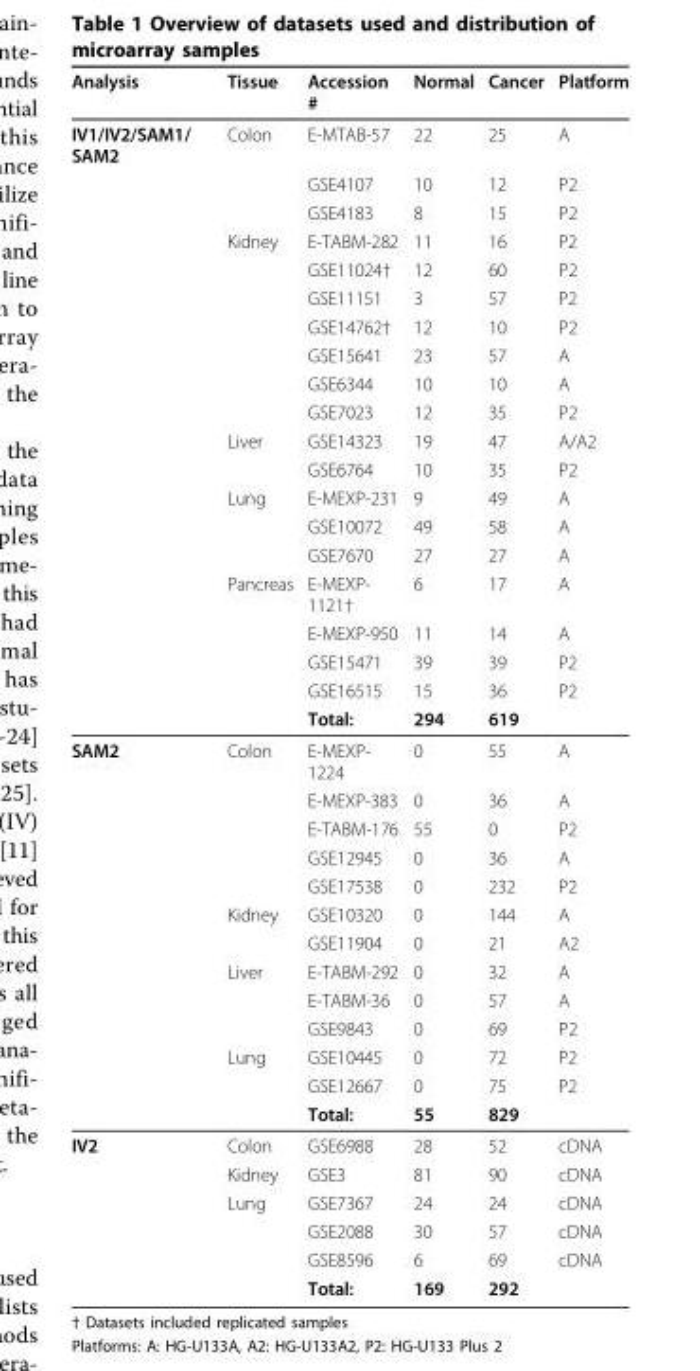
<table><thead><tr><td>Analysis</td><td>Tissue</td><td>Accession #</td><td>Normal</td><td>Cancer</td><td>Platform</td></tr></thead><tbody><tr><td rowspan="20">IV1/IV2/SAM1/ SAM2</td><td>Colon</td><td>E-MTAB-57</td><td>22</td><td>25</td><td>A</td></tr><tr><td></td><td>GSE4107</td><td>10</td><td>12</td><td>P2</td></tr><tr><td></td><td>GSE4183</td><td>8</td><td>15</td><td>P2</td></tr><tr><td>Kidney</td><td>E-TABM-282</td><td>11</td><td>16</td><td>P2</td></tr><tr><td></td><td>GSE11024†</td><td>12</td><td>60</td><td>P2</td></tr><tr><td></td><td>GSE11151</td><td>3</td><td>57</td><td>P2</td></tr><tr><td></td><td>GSE14762†</td><td>12</td><td>10</td><td>P2</td></tr><tr><td></td><td>GSE15641</td><td>23</td><td>57</td><td>A</td></tr><tr><td></td><td>GSE6344</td><td>10</td><td>10</td><td>A</td></tr><tr><td></td><td>GSE7023</td><td>12</td><td>35</td><td>P2</td></tr><tr><td>Liver</td><td>GSE14323</td><td>19</td><td>47</td><td>A/A2</td></tr><tr><td></td><td>GSE6764</td><td>10</td><td>35</td><td>P2</td></tr><tr><td>Lung</td><td>E-MEXP-231</td><td>9</td><td>49</td><td>A</td></tr><tr><td></td><td>GSE10072</td><td>49</td><td>58</td><td>A</td></tr><tr><td></td><td>GSE7670</td><td>27</td><td>27</td><td>A</td></tr><tr><td>Pancreas</td><td>E-MEXP- 1121†</td><td>6</td><td>17</td><td>A</td></tr><tr><td></td><td>E-MEXP-950</td><td>11</td><td>14</td><td>A</td></tr><tr><td></td><td>GSE15471</td><td>39</td><td>39</td><td>P2</td></tr><tr><td></td><td>GSE16515</td><td>15</td><td>36</td><td>P2</td></tr><tr><td></td><td>Total:</td><td>294</td><td>619</td><td></td></tr><tr><td rowspan="13">SAM2</td><td>Colon</td><td>E-MEXP- 1224</td><td>0</td><td>55</td><td>A</td></tr><tr><td></td><td>E-MEXP-383</td><td>0</td><td>36</td><td>A</td></tr><tr><td></td><td>E-TABM-176</td><td>55</td><td>0</td><td>P2</td></tr><tr><td></td><td>GSE12945</td><td>0</td><td>36</td><td>A</td></tr><tr><td></td><td>GSE17538</td><td>0</td><td>232</td><td>P2</td></tr><tr><td>Kidney</td><td>GSE10320</td><td>0</td><td>144</td><td>A</td></tr><tr><td></td><td>GSE11904</td><td>0</td><td>21</td><td>A2</td></tr><tr><td>Liver</td><td>E-TABM-292</td><td>0</td><td>32</td><td>A</td></tr><tr><td></td><td>E-TABM-36</td><td>0</td><td>57</td><td>A</td></tr><tr><td></td><td>GSE9843</td><td>0</td><td>69</td><td>P2</td></tr><tr><td>Lung</td><td>GSE10445</td><td>0</td><td>72</td><td>P2</td></tr><tr><td></td><td>GSE12667</td><td>0</td><td>75</td><td>P2</td></tr><tr><td></td><td>Total:</td><td>55</td><td>829</td><td></td></tr><tr><td rowspan="6">IV2</td><td>Colon</td><td>GSE6988</td><td>28</td><td>52</td><td>cDNA</td></tr><tr><td>Kidney</td><td>GSE3</td><td>81</td><td>90</td><td>cDNA</td></tr><tr><td>Lung</td><td>GSE7367</td><td>24</td><td>24</td><td>cDNA</td></tr><tr><td></td><td>GSE2088</td><td>30</td><td>57</td><td>cDNA</td></tr><tr><td></td><td>GSE8596</td><td>6</td><td>69</td><td>cDNA</td></tr><tr><td></td><td>Total:</td><td>169</td><td>292</td><td></td></tr></tbody></table>